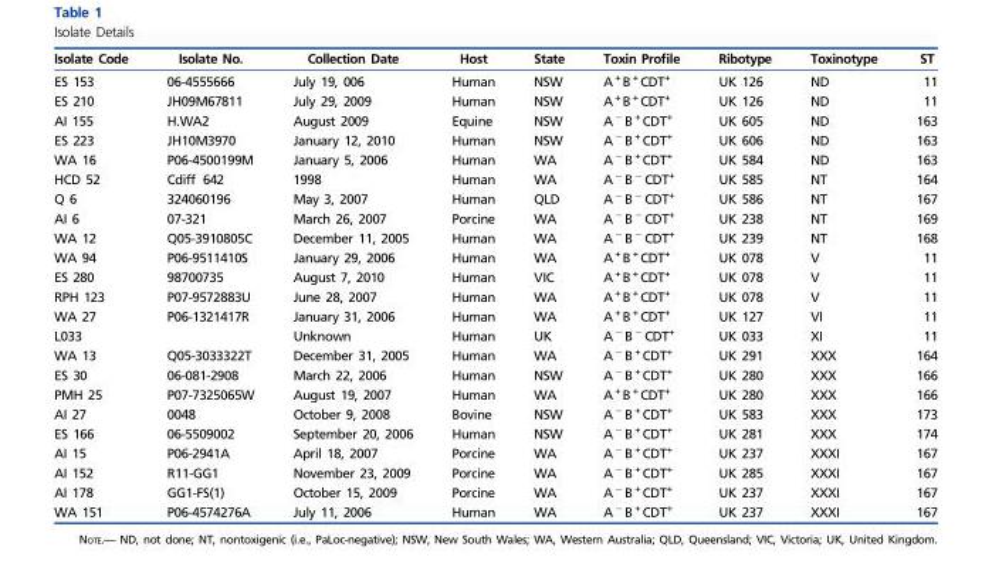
<table><thead><tr><td>Isolate Code</td><td>Isolate No.</td><td>Collection Date</td><td>Host</td><td>State</td><td>Toxin Profile</td><td>Ribotype</td><td>Toxinotype</td><td>ST</td></tr></thead><tbody><tr><td>ES 153</td><td>06-4555666</td><td>July 19, 006</td><td>Human</td><td>NSW</td><td>A <sup>+</sup>B <sup>+</sup>CDT<sup>+</sup></td><td>UK 126</td><td>ND</td><td>11</td></tr><tr><td>ES 210</td><td>JH09M67811</td><td>July 29, 2009</td><td>Human</td><td>NSW</td><td>A <sup>+</sup>B <sup>+</sup>CDT<sup>+</sup></td><td>UK 126</td><td>ND</td><td>11</td></tr><tr><td>AI 155</td><td>H.WA2</td><td>August 2009</td><td>Equine</td><td>NSW</td><td>A <sup>−</sup> B <sup>+</sup>CDT<sup>+</sup></td><td>UK 605</td><td>ND</td><td>163</td></tr><tr><td>ES 223</td><td>JH10M3970</td><td>January 12, 2010</td><td>Human</td><td>NSW</td><td>A <sup>−</sup> B <sup>+</sup>CDT<sup>+</sup></td><td>UK 606</td><td>ND</td><td>163</td></tr><tr><td>WA 16</td><td>P06-4500199M</td><td>January 5, 2006</td><td>Human</td><td>WA</td><td>A <sup>−</sup> B <sup>+</sup>CDT<sup>+</sup></td><td>UK 584</td><td>ND</td><td>163</td></tr><tr><td>HCD 52</td><td>Cdiff 642</td><td>1998</td><td>Human</td><td>WA</td><td>A <sup>−</sup> B <sup>−</sup> CDT<sup>+</sup></td><td>UK 585</td><td>NT</td><td>164</td></tr><tr><td>Q 6</td><td>324060196</td><td>May 3, 2007</td><td>Human</td><td>QLD</td><td>A <sup>−</sup> B <sup>−</sup> CDT<sup>+</sup></td><td>UK 586</td><td>NT</td><td>167</td></tr><tr><td>AI 6</td><td>07-321</td><td>March 26, 2007</td><td>Porcine</td><td>WA</td><td>A <sup>−</sup> B <sup>−</sup> CDT<sup>+</sup></td><td>UK 238</td><td>NT</td><td>169</td></tr><tr><td>WA 12</td><td>Q05-3910805C</td><td>December 11, 2005</td><td>Human</td><td>WA</td><td>A <sup>−</sup> B <sup>−</sup> CDT<sup>+</sup></td><td>UK 239</td><td>NT</td><td>168</td></tr><tr><td>WA 94</td><td>P06-9511410S</td><td>January 29, 2006</td><td>Human</td><td>WA</td><td>A <sup>+</sup>B <sup>+</sup>CDT<sup>+</sup></td><td>UK 078</td><td>V</td><td>11</td></tr><tr><td>ES 280</td><td>98700735</td><td>August 7, 2010</td><td>Human</td><td>VIC</td><td>A <sup>+</sup>B <sup>+</sup>CDT<sup>+</sup></td><td>UK 078</td><td>V</td><td>11</td></tr><tr><td>RPH 123</td><td>P07-9572883U</td><td>June 28, 2007</td><td>Human</td><td>WA</td><td>A <sup>+</sup>B <sup>+</sup>CDT<sup>+</sup></td><td>UK 078</td><td>V</td><td>11</td></tr><tr><td>WA 27</td><td>P06-1321417R</td><td>January 31, 2006</td><td>Human</td><td>WA</td><td>A <sup>+</sup>B <sup>+</sup>CDT<sup>+</sup></td><td>UK 127</td><td>VI</td><td>11</td></tr><tr><td>L033</td><td></td><td>Unknown</td><td>Human</td><td>UK</td><td>A <sup>−</sup> B <sup>−</sup> CDT<sup>+</sup></td><td>UK 033</td><td>XI</td><td>11</td></tr><tr><td>WA 13</td><td>Q05-3033322T</td><td>December 31, 2005</td><td>Human</td><td>WA</td><td>A <sup>−</sup> B <sup>+</sup>CDT<sup>+</sup></td><td>UK 291</td><td>XXX</td><td>164</td></tr><tr><td>ES 30</td><td>06-081-2908</td><td>March 22, 2006</td><td>Human</td><td>NSW</td><td>A <sup>−</sup> B <sup>+</sup>CDT<sup>+</sup></td><td>UK 280</td><td>XXX</td><td>166</td></tr><tr><td>PMH 25</td><td>P07-7325065W</td><td>August 19, 2007</td><td>Human</td><td>WA</td><td>A <sup>+</sup>B <sup>+</sup>CDT<sup>+</sup></td><td>UK 280</td><td>XXX</td><td>166</td></tr><tr><td>AI 27</td><td>0048</td><td>October 9, 2008</td><td>Bovine</td><td>NSW</td><td>A <sup>−</sup> B <sup>+</sup>CDT<sup>+</sup></td><td>UK 583</td><td>XXX</td><td>173</td></tr><tr><td>ES 166</td><td>06-5509002</td><td>September 20, 2006</td><td>Human</td><td>NSW</td><td>A <sup>−</sup> B <sup>+</sup>CDT<sup>+</sup></td><td>UK 281</td><td>XXX</td><td>174</td></tr><tr><td>AI 15</td><td>P06-2941A</td><td>April 18, 2007</td><td>Porcine</td><td>WA</td><td>A <sup>−</sup> B <sup>+</sup>CDT<sup>+</sup></td><td>UK 237</td><td>XXXI</td><td>167</td></tr><tr><td>AI 152</td><td>R11-GG1</td><td>November 23, 2009</td><td>Porcine</td><td>WA</td><td>A <sup>−</sup> B <sup>+</sup>CDT<sup>+</sup></td><td>UK 285</td><td>XXXI</td><td>167</td></tr><tr><td>AI 178</td><td>GG1-FS(1)</td><td>October 15, 2009</td><td>Porcine</td><td>WA</td><td>A <sup>−</sup> B <sup>+</sup>CDT<sup>+</sup></td><td>UK 237</td><td>XXXI</td><td>167</td></tr><tr><td>WA 151</td><td>P06-4574276A</td><td>July 11, 2006</td><td>Human</td><td>WA</td><td>A <sup>−</sup> B <sup>+</sup>CDT<sup>+</sup></td><td>UK 237</td><td>XXXI</td><td>167</td></tr></tbody></table>